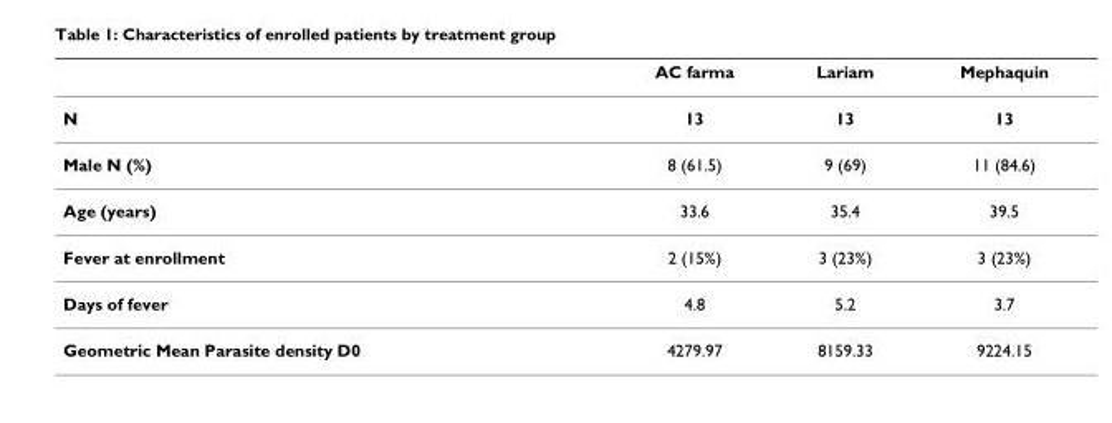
<table><thead><tr><td></td><td>AC farma</td><td>Lariam</td><td>Mephaquin</td></tr></thead><tbody><tr><td>N</td><td>13</td><td>13</td><td>13</td></tr><tr><td>Male N (%)</td><td>8 (61.5)</td><td>9 (69)</td><td>11 (84.6)</td></tr><tr><td>Age (years)</td><td>33.6</td><td>35.4</td><td>39.5</td></tr><tr><td>Fever at enrollment</td><td>2 (15%)</td><td>3 (23%)</td><td>3 (23%)</td></tr><tr><td>Days of fever</td><td>4.8</td><td>5.2</td><td>3.7</td></tr><tr><td>Geometric Mean Parasite density D0</td><td>4279.97</td><td>8159.33</td><td>9224.15</td></tr></tbody></table>